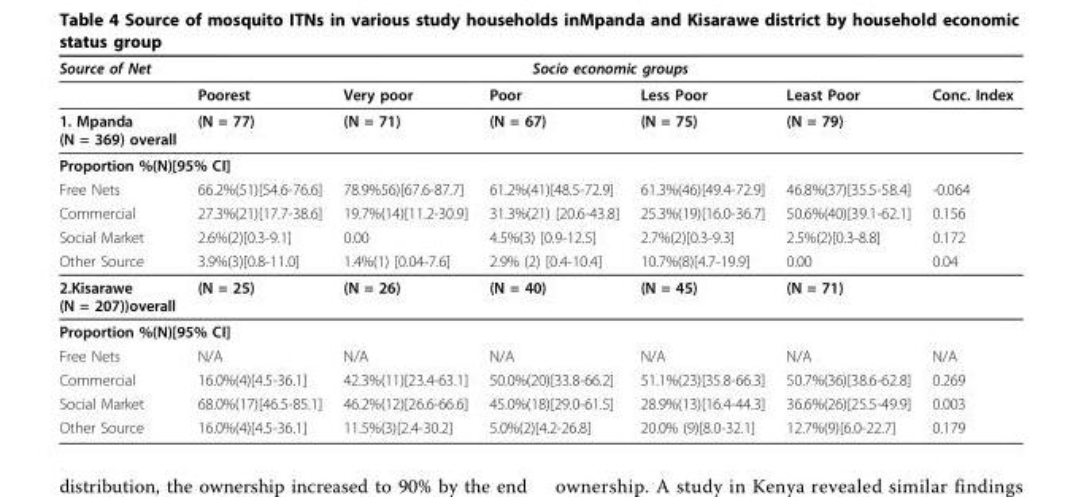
<table><thead><tr><td rowspan="2">Source of Net</td><td colspan="6">Socio economic groups</td></tr><tr><td>Poorest</td><td>Very poor</td><td>Poor</td><td>Less Poor</td><td>Least Poor</td><td>Conc. Index</td></tr></thead><tbody><tr><td>1. Mpanda (N = 369) overall</td><td>(N = 77)</td><td>(N = 71)</td><td>(N = 67)</td><td>(N = 75)</td><td>(N = 79)</td><td></td></tr><tr><td colspan="7">Proportion %(N)[95% CI]</td></tr><tr><td>Free Nets</td><td>66.2%(51)[54.6-76.6]</td><td>78.9%56)[67.6-87.7]</td><td>61.2%(41)[48.5-72.9]</td><td>61.3%(46)[49.4-72.9]</td><td>46.8%(37)[35.5-58.4]</td><td>-0.064</td></tr><tr><td>Commercial</td><td>27.3%(21)[17.7-38.6]</td><td>19.7%(14)[11.2-30.9]</td><td>31.3%(21) [20.6-43.8]</td><td>25.3%(19)[16.0-36.7]</td><td>50.6%(40)[39.1-62.1]</td><td>0.156</td></tr><tr><td>Social Market</td><td>2.6%(2)[0.3-9.1]</td><td>0.00</td><td>4.5%(3) [0.9-12.5]</td><td>2.7%(2)[0.3-9.3]</td><td>2.5%(2)[0.3-8.8]</td><td>0.172</td></tr><tr><td>Other Source</td><td>3.9%(3)[0.8-11.0]</td><td>1.4%(1) [0.04-7.6]</td><td>2.9% (2) [0.4-10.4]</td><td>10.7%(8)[4.7-19.9]</td><td>0.00</td><td>0.04</td></tr><tr><td>2.Kisarawe (N = 207))overall</td><td>(N = 25)</td><td>(N = 26)</td><td>(N = 40)</td><td>(N = 45)</td><td>(N = 71)</td><td></td></tr><tr><td colspan="7">Proportion %(N)[95% CI]</td></tr><tr><td>Free Nets</td><td>N/A</td><td>N/A</td><td>N/A</td><td>N/A</td><td>N/A</td><td>N/A</td></tr><tr><td>Commercial</td><td>16.0%(4)[4.5-36.1]</td><td>42.3%(11)[23.4-63.1]</td><td>50.0%(20)[33.8-66.2]</td><td>51.1%(23)[35.8-66.3]</td><td>50.7%(36)[38.6-62.8]</td><td>0.269</td></tr><tr><td>Social Market</td><td>68.0%(17)[46.5-85.1]</td><td>46.2%(12)[26.6-66.6]</td><td>45.0%(18)[29.0-61.5]</td><td>28.9%(13)[16.4-44.3]</td><td>36.6%(26)[25.5-49.9]</td><td>0.003</td></tr><tr><td>Other Source</td><td>16.0%(4)[4.5-36.1]</td><td>11.5%(3)[2.4-30.2]</td><td>5.0%(2)[4.2-26.8]</td><td>20.0% (9)[8.0-32.1]</td><td>12.7%(9)[6.0-22.7]</td><td>0.179</td></tr></tbody></table>